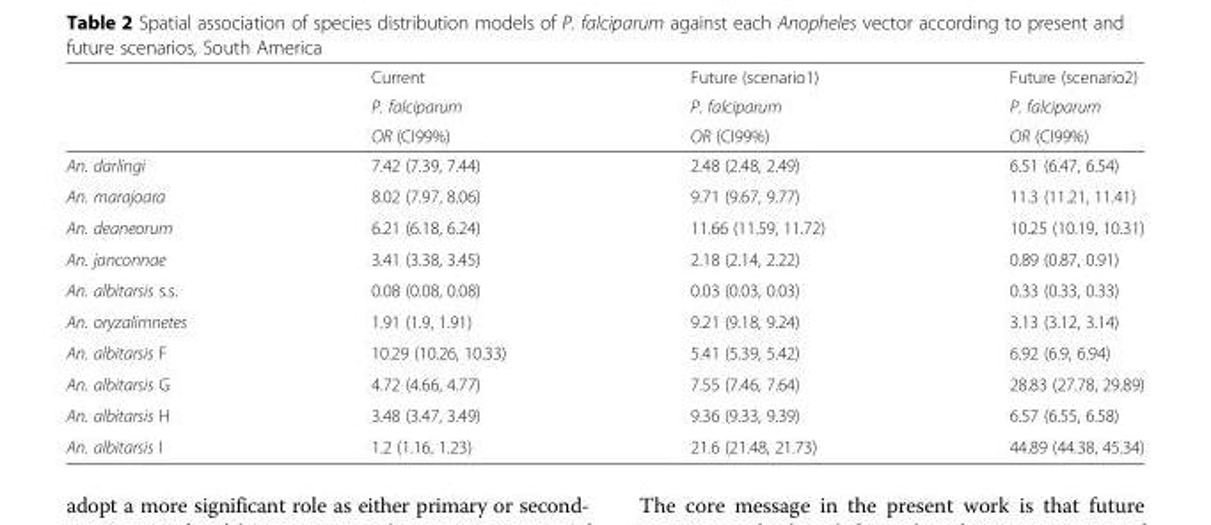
<table><thead><tr><td rowspan="3"></td><td rowspan="3">Current P. falciparum OR (CI99%)</td><td rowspan="3">Future (scenario1) P. falciparum OR (CI99%)</td><td rowspan="3">Future (scenario2) P. falciparum OR (CI99%)</td></tr><tr></tr><tr></tr></thead><tbody><tr><td>An. darlingi</td><td>7.42 (7.39, 7.44)</td><td>2.48 (2.48, 2.49)</td><td>6.51 (6.47, 6.54)</td></tr><tr><td>An. marajoara</td><td>8.02 (7.97, 8.06)</td><td>9.71 (9.67, 9.77)</td><td>11.3 (11.21, 11.41)</td></tr><tr><td>An. deaneorum</td><td>6.21 (6.18, 6.24)</td><td>11.66 (11.59, 11.72)</td><td>10.25 (10.19, 10.31)</td></tr><tr><td>An. janconnae</td><td>3.41 (3.38, 3.45)</td><td>2.18 (2.14, 2.22)</td><td>0.89 (0.87, 0.91)</td></tr><tr><td>An. albitarsis s.s.</td><td>0.08 (0.08, 0.08)</td><td>0.03 (0.03, 0.03)</td><td>0.33 (0.33, 0.33)</td></tr><tr><td>An. oryzalimnetes</td><td>1.91 (1.9, 1.91)</td><td>9.21 (9.18, 9.24)</td><td>3.13 (3.12, 3.14)</td></tr><tr><td>An. albitarsis F</td><td>10.29 (10.26, 10.33)</td><td>5.41 (5.39, 5.42)</td><td>6.92 (6.9, 6.94)</td></tr><tr><td>An. albitarsis G</td><td>4.72 (4.66, 4.77)</td><td>7.55 (7.46, 7.64)</td><td>28.83 (27.78, 29.89)</td></tr><tr><td>An. albitarsis H</td><td>3.48 (3.47, 3.49)</td><td>9.36 (9.33, 9.39)</td><td>6.57 (6.55, 6.58)</td></tr><tr><td>An. albitarsis I</td><td>1.2 (1.16, 1.23)</td><td>21.6 (21.48, 21.73)</td><td>44.89 (44.38, 45.34)</td></tr></tbody></table>